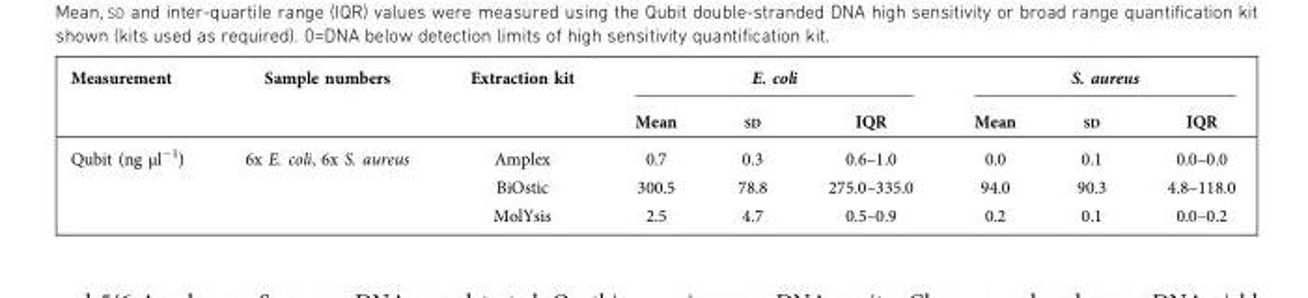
<table><thead><tr><td rowspan="2">Measurement</td><td rowspan="2">Sample numbers</td><td rowspan="2">Extraction kit</td><td colspan="3">E. coli</td><td colspan="3">S. aureus</td></tr><tr><td>Mean</td><td>SD</td><td>IQR</td><td>Mean</td><td>SD</td><td>IQR</td></tr></thead><tbody><tr><td rowspan="3">Qubit (ng µl<sup>−1</sup>)</td><td rowspan="3">6x E. coli, 6x S. aureus</td><td>Amplex</td><td>0.7</td><td>0.3</td><td>0.6–1.0</td><td>0.0</td><td>0.1</td><td>0.0–0.0</td></tr><tr><td>BiOstic</td><td>300.5</td><td>78.8</td><td>275.0–335.0</td><td>94.0</td><td>90.3</td><td>4.8–118.0</td></tr><tr><td>MolYsis</td><td>2.5</td><td>4.7</td><td>0.5–0.9</td><td>0.2</td><td>0.1</td><td>0.0–0.2</td></tr></tbody></table>